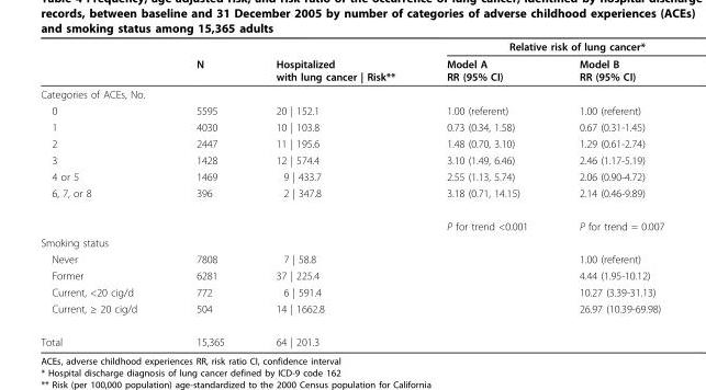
<table><thead><tr><td rowspan="2"></td><td rowspan="2">N</td><td rowspan="2">Hospitalized with lung cancer | Risk**</td><td colspan="2">Relative risk of lung cancer*</td></tr><tr><td>Model A RR (95% CI)</td><td>Model B RR (95% CI)</td></tr></thead><tbody><tr><td colspan="5">Categories of ACEs, No.</td></tr><tr><td>0</td><td>5595</td><td>20 | 152.1</td><td>1.00 (referent)</td><td>1.00 (referent)</td></tr><tr><td>1</td><td>4030</td><td>10 | 103.8</td><td>0.73 (0.34, 1.58)</td><td>0.67 (0.31-1.45)</td></tr><tr><td>2</td><td>2447</td><td>11 | 195.6</td><td>1.48 (0.70, 3.10)</td><td>1.29 (0.61-2.74)</td></tr><tr><td>3</td><td>1428</td><td>12 | 574.4</td><td>3.10 (1.49, 6.46)</td><td>2.46 (1.17-5.19)</td></tr><tr><td>4 or 5</td><td>1469</td><td>9 | 433.7</td><td>2.55 (1.13, 5.74)</td><td>2.06 (0.90-4.72)</td></tr><tr><td rowspan="2">6, 7, or 8</td><td>396</td><td>2 | 347.8</td><td>3.18 (0.71, 14.15)</td><td>2.14 (0.46-9.89)</td></tr><tr><td></td><td></td><td>P for trend &lt;0.001</td><td>P for trend = 0.007</td></tr><tr><td colspan="5">Smoking status</td></tr><tr><td>Never</td><td>7808</td><td>7 | 58.8</td><td></td><td>1.00 (referent)</td></tr><tr><td>Former</td><td>6281</td><td>37 | 225.4</td><td></td><td>4.44 (1.95-10.12)</td></tr><tr><td>Current, &lt;20 cig/d</td><td>772</td><td>6 | 591.4</td><td></td><td>10.27 (3.39-31.13)</td></tr><tr><td>Current, ≥ 20 cig/d</td><td>504</td><td>14 | 1662.8</td><td></td><td>26.97 (10.39-69.98)</td></tr><tr><td>Total</td><td>15,365</td><td>64 | 201.3</td><td></td><td></td></tr></tbody></table>